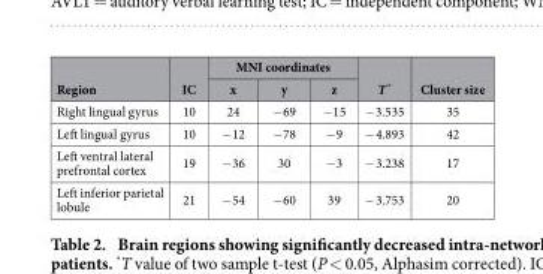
<table><thead><tr><td rowspan="2">Region</td><td rowspan="2">IC</td><td colspan="3">MNI coordinates</td><td rowspan="2">T *</td><td rowspan="2">Cluster size</td></tr><tr><td>x</td><td>y</td><td>z</td></tr></thead><tbody><tr><td>Right lingual gyrus</td><td>10</td><td>24</td><td>−69</td><td>−15</td><td>−3.535</td><td>35</td></tr><tr><td>Left lingual gyrus</td><td>10</td><td>−12</td><td>−78</td><td>−9</td><td>− 4.893</td><td>42</td></tr><tr><td>Left ventral lateral prefrontal cortex</td><td>19</td><td>−36</td><td>30</td><td>−3</td><td>− 3.238</td><td>17</td></tr><tr><td>Left inferior parietal lobule</td><td>21</td><td>−54</td><td>−60</td><td>39</td><td>− 3.753</td><td>20</td></tr></tbody></table>